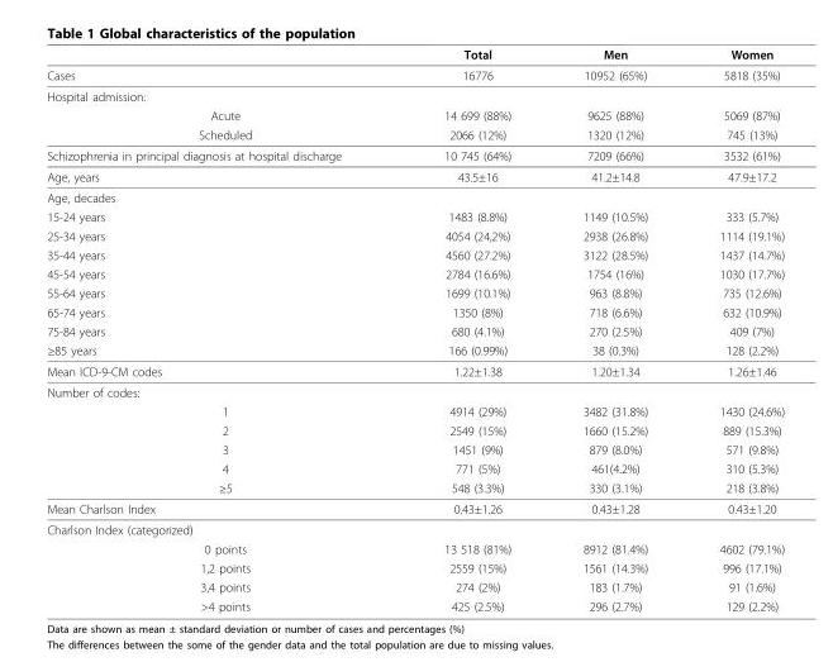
<table><thead><tr><td></td><td>Total</td><td>Men</td><td>Women</td></tr></thead><tbody><tr><td>Cases</td><td>16776</td><td>10952 (65%)</td><td>5818 (35%)</td></tr><tr><td colspan="4">Hospital admission:</td></tr><tr><td>Acute</td><td>14 699 (88%)</td><td>9625 (88%)</td><td>5069 (87%)</td></tr><tr><td>Scheduled</td><td>2066 (12%)</td><td>1320 (12%)</td><td>745 (13%)</td></tr><tr><td>Schizophrenia in principal diagnosis at hospital discharge</td><td>10 745 (64%)</td><td>7209 (66%)</td><td>3532 (61%)</td></tr><tr><td>Age, years</td><td>43.5±16</td><td>41.2±14.8</td><td>47.9±17.2</td></tr><tr><td colspan="4">Age, decades</td></tr><tr><td>15-24 years</td><td>1483 (8.8%)</td><td>1149 (10.5%)</td><td>333 (5.7%)</td></tr><tr><td>25-34 years</td><td>4054 (24,2%)</td><td>2938 (26.8%)</td><td>1114 (19.1%)</td></tr><tr><td>35-44 years</td><td>4560 (27.2%)</td><td>3122 (28.5%)</td><td>1437 (14.7%)</td></tr><tr><td>45-54 years</td><td>2784 (16.6%)</td><td>1754 (16%)</td><td>1030 (17.7%)</td></tr><tr><td>55-64 years</td><td>1699 (10.1%)</td><td>963 (8.8%)</td><td>735 (12.6%)</td></tr><tr><td>65-74 years</td><td>1350 (8%)</td><td>718 (6.6%)</td><td>632 (10.9%)</td></tr><tr><td>75-84 years</td><td>680 (4.1%)</td><td>270 (2.5%)</td><td>409 (7%)</td></tr><tr><td>≥85 years</td><td>166 (0.99%)</td><td>38 (0.3%)</td><td>128 (2.2%)</td></tr><tr><td>Mean ICD-9-CM codes</td><td>1.22±1.38</td><td>1.20±1.34</td><td>1.26±1.46</td></tr><tr><td colspan="4">Number of codes:</td></tr><tr><td>1</td><td>4914 (29%)</td><td>3482 (31.8%)</td><td>1430 (24.6%)</td></tr><tr><td>2</td><td>2549 (15%)</td><td>1660 (15.2%)</td><td>889 (15.3%)</td></tr><tr><td>3</td><td>1451 (9%)</td><td>879 (8.0%)</td><td>571 (9.8%)</td></tr><tr><td>4</td><td>771 (5%)</td><td>461(4.2%)</td><td>310 (5.3%)</td></tr><tr><td>≥5</td><td>548 (3.3%)</td><td>330 (3.1%)</td><td>218 (3.8%)</td></tr><tr><td>Mean Charlson Index</td><td>0.43±1.26</td><td>0.43±1.28</td><td>0.43±1.20</td></tr><tr><td colspan="4">Charlson Index (categorized)</td></tr><tr><td>0 points</td><td>13 518 (81%)</td><td>8912 (81.4%)</td><td>4602 (79.1%)</td></tr><tr><td>1,2 points</td><td>2559 (15%)</td><td>1561 (14.3%)</td><td>996 (17.1%)</td></tr><tr><td>3,4 points</td><td>274 (2%)</td><td>183 (1.7%)</td><td>91 (1.6%)</td></tr><tr><td>&gt;4 points</td><td>425 (2.5%)</td><td>296 (2.7%)</td><td>129 (2.2%)</td></tr></tbody></table>